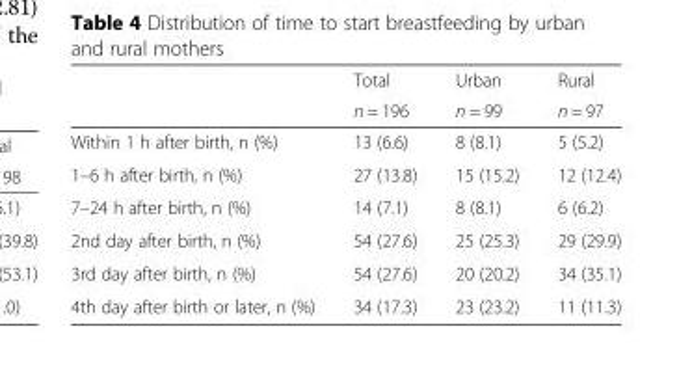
<table><thead><tr><td rowspan="2"></td><td rowspan="2">Total n = 196</td><td rowspan="2">Urban n = 99</td><td rowspan="2">Rural n = 97</td></tr><tr></tr></thead><tbody><tr><td>Within 1 h after birth, n (%)</td><td>13 (6.6)</td><td>8 (8.1)</td><td>5 (5.2)</td></tr><tr><td>1–6 h after birth, n (%)</td><td>27 (13.8)</td><td>15 (15.2)</td><td>12 (12.4)</td></tr><tr><td>7–24 h after birth, n (%)</td><td>14 (7.1)</td><td>8 (8.1)</td><td>6 (6.2)</td></tr><tr><td>2nd day after birth, n (%)</td><td>54 (27.6)</td><td>25 (25.3)</td><td>29 (29.9)</td></tr><tr><td>3rd day after birth, n (%)</td><td>54 (27.6)</td><td>20 (20.2)</td><td>34 (35.1)</td></tr><tr><td>4th day after birth or later, n (%)</td><td>34 (17.3)</td><td>23 (23.2)</td><td>11 (11.3)</td></tr></tbody></table>